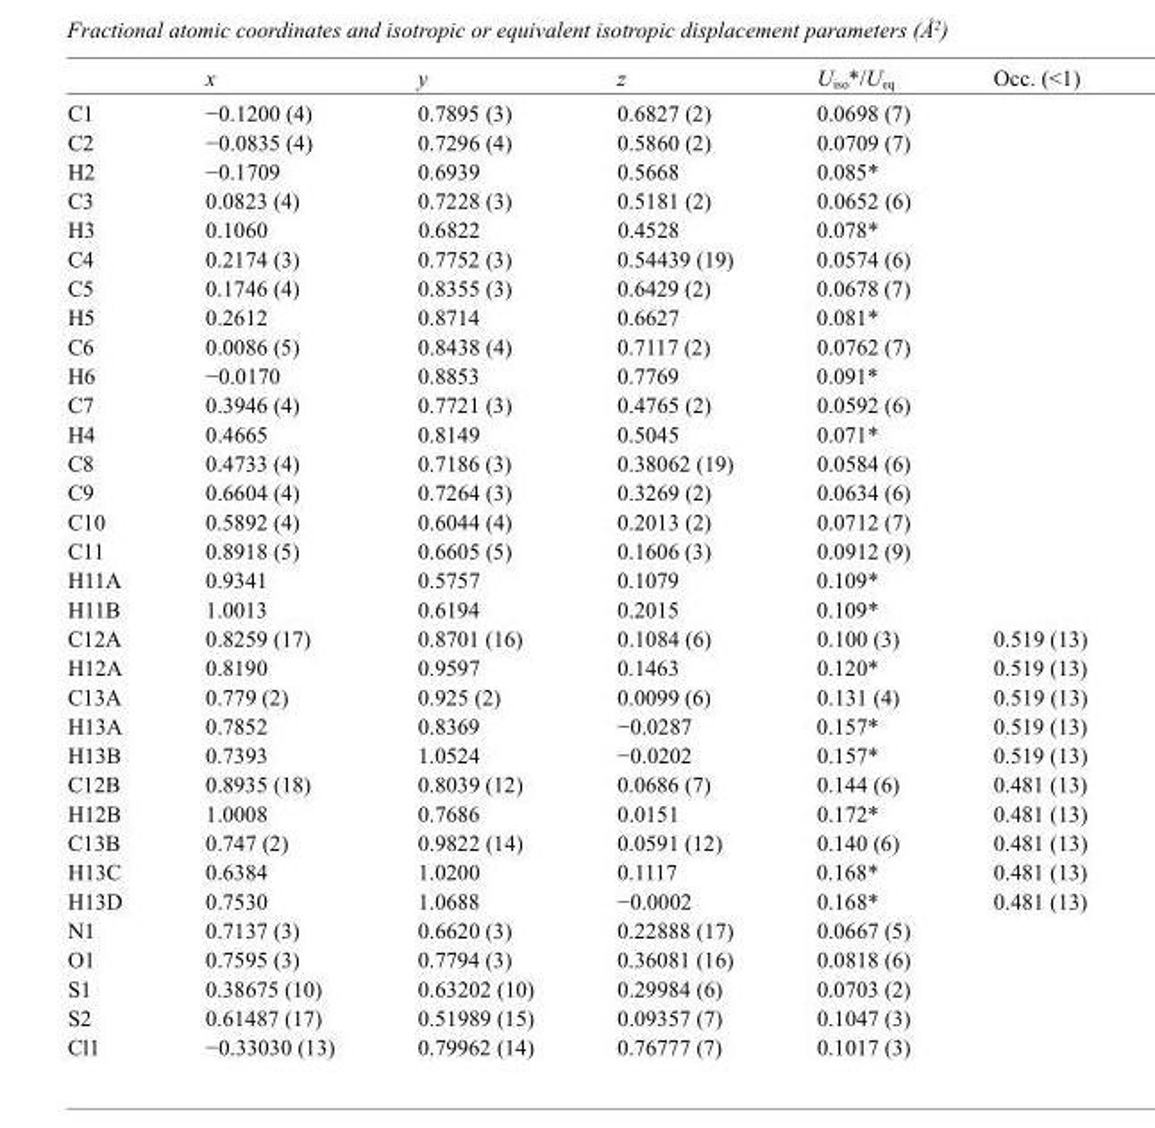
<table><thead><tr><td></td><td>x</td><td>y</td><td>z</td><td>U<sub>iso</sub>*/U<sub>eq</sub></td><td>Occ. (&lt;1)</td></tr></thead><tbody><tr><td>C1</td><td>−0.1200 (4)</td><td>0.7895 (3)</td><td>0.6827 (2)</td><td>0.0698 (7)</td><td></td></tr><tr><td>C2</td><td>−0.0835 (4)</td><td>0.7296 (4)</td><td>0.5860 (2)</td><td>0.0709 (7)</td><td></td></tr><tr><td>H2</td><td>−0.1709</td><td>0.6939</td><td>0.5668</td><td>0.085*</td><td></td></tr><tr><td>C3</td><td>0.0823 (4)</td><td>0.7228 (3)</td><td>0.5181 (2)</td><td>0.0652 (6)</td><td></td></tr><tr><td>H3</td><td>0.1060</td><td>0.6822</td><td>0.4528</td><td>0.078*</td><td></td></tr><tr><td>C4</td><td>0.2174 (3)</td><td>0.7752 (3)</td><td>0.54439 (19)</td><td>0.0574 (6)</td><td></td></tr><tr><td>C5</td><td>0.1746 (4)</td><td>0.8355 (3)</td><td>0.6429 (2)</td><td>0.0678 (7)</td><td></td></tr><tr><td>H5</td><td>0.2612</td><td>0.8714</td><td>0.6627</td><td>0.081*</td><td></td></tr><tr><td>C6</td><td>0.0086 (5)</td><td>0.8438 (4)</td><td>0.7117 (2)</td><td>0.0762 (7)</td><td></td></tr><tr><td>H6</td><td>−0.0170</td><td>0.8853</td><td>0.7769</td><td>0.091*</td><td></td></tr><tr><td>C7</td><td>0.3946 (4)</td><td>0.7721 (3)</td><td>0.4765 (2)</td><td>0.0592 (6)</td><td></td></tr><tr><td>H4</td><td>0.4665</td><td>0.8149</td><td>0.5045</td><td>0.071*</td><td></td></tr><tr><td>C8</td><td>0.4733 (4)</td><td>0.7186 (3)</td><td>0.38062 (19)</td><td>0.0584 (6)</td><td></td></tr><tr><td>C9</td><td>0.6604 (4)</td><td>0.7264 (3)</td><td>0.3269 (2)</td><td>0.0634 (6)</td><td></td></tr><tr><td>C10</td><td>0.5892 (4)</td><td>0.6044 (4)</td><td>0.2013 (2)</td><td>0.0712 (7)</td><td></td></tr><tr><td>C11</td><td>0.8918 (5)</td><td>0.6605 (5)</td><td>0.1606 (3)</td><td>0.0912 (9)</td><td></td></tr><tr><td>H11A</td><td>0.9341</td><td>0.5757</td><td>0.1079</td><td>0.109*</td><td></td></tr><tr><td>H11B</td><td>1.0013</td><td>0.6194</td><td>0.2015</td><td>0.109*</td><td></td></tr><tr><td>C12A</td><td>0.8259 (17)</td><td>0.8701 (16)</td><td>0.1084 (6)</td><td>0.100 (3)</td><td>0.519 (13)</td></tr><tr><td>H12A</td><td>0.8190</td><td>0.9597</td><td>0.1463</td><td>0.120*</td><td>0.519 (13)</td></tr><tr><td>C13A</td><td>0.779 (2)</td><td>0.925 (2)</td><td>0.0099 (6)</td><td>0.131 (4)</td><td>0.519 (13)</td></tr><tr><td>H13A</td><td>0.7852</td><td>0.8369</td><td>−0.0287</td><td>0.157*</td><td>0.519 (13)</td></tr><tr><td>H13B</td><td>0.7393</td><td>1.0524</td><td>−0.0202</td><td>0.157*</td><td>0.519 (13)</td></tr><tr><td>C12B</td><td>0.8935 (18)</td><td>0.8039 (12)</td><td>0.0686 (7)</td><td>0.144 (6)</td><td>0.481 (13)</td></tr><tr><td>H12B</td><td>1.0008</td><td>0.7686</td><td>0.0151</td><td>0.172*</td><td>0.481 (13)</td></tr><tr><td>C13B</td><td>0.747 (2)</td><td>0.9822 (14)</td><td>0.0591 (12)</td><td>0.140 (6)</td><td>0.481 (13)</td></tr><tr><td>H13C</td><td>0.6384</td><td>1.0200</td><td>0.1117</td><td>0.168*</td><td>0.481 (13)</td></tr><tr><td>H13D</td><td>0.7530</td><td>1.0688</td><td>−0.0002</td><td>0.168*</td><td>0.481 (13)</td></tr><tr><td>N1</td><td>0.7137 (3)</td><td>0.6620 (3)</td><td>0.22888 (17)</td><td>0.0667 (5)</td><td></td></tr><tr><td>O1</td><td>0.7595 (3)</td><td>0.7794 (3)</td><td>0.36081 (16)</td><td>0.0818 (6)</td><td></td></tr><tr><td>S1</td><td>0.38675 (10)</td><td>0.63202 (10)</td><td>0.29984 (6)</td><td>0.0703 (2)</td><td></td></tr><tr><td>S2</td><td>0.61487 (17)</td><td>0.51989 (15)</td><td>0.09357 (7)</td><td>0.1047 (3)</td><td></td></tr><tr><td>Cl1</td><td>−0.33030 (13)</td><td>0.79962 (14)</td><td>0.76777 (7)</td><td>0.1017 (3)</td><td></td></tr></tbody></table>